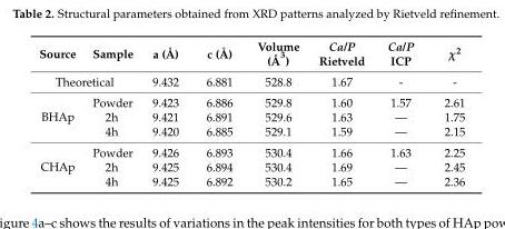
<table><thead><tr><td>Source</td><td>Sample</td><td>a (Å)</td><td>c (Å)</td><td>Volume (Å <sup>3</sup>)</td><td>Ca/P Rietveld</td><td>Ca/P ICP</td><td>χ<sup>2</sup></td></tr></thead><tbody><tr><td colspan="2">Theoretical</td><td>9.432</td><td>6.881</td><td>528.8</td><td>1.67</td><td>-</td><td>-</td></tr><tr><td rowspan="3">BHAp</td><td>Powder</td><td>9.423</td><td>6.886</td><td>529.8</td><td>1.60</td><td>1.57</td><td>2.61</td></tr><tr><td>2h</td><td>9.421</td><td>6.891</td><td>529.6</td><td>1.63</td><td>—</td><td>1.75</td></tr><tr><td>4h</td><td>9.420</td><td>6.885</td><td>529.1</td><td>1.59</td><td>—</td><td>2.15</td></tr><tr><td rowspan="3">CHAp</td><td>Powder</td><td>9.426</td><td>6.893</td><td>530.4</td><td>1.66</td><td>1.63</td><td>2.25</td></tr><tr><td>2h</td><td>9.425</td><td>6.894</td><td>530.4</td><td>1.69</td><td>—</td><td>2.45</td></tr><tr><td>4h</td><td>9.425</td><td>6.892</td><td>530.2</td><td>1.65</td><td>—</td><td>2.36</td></tr></tbody></table>